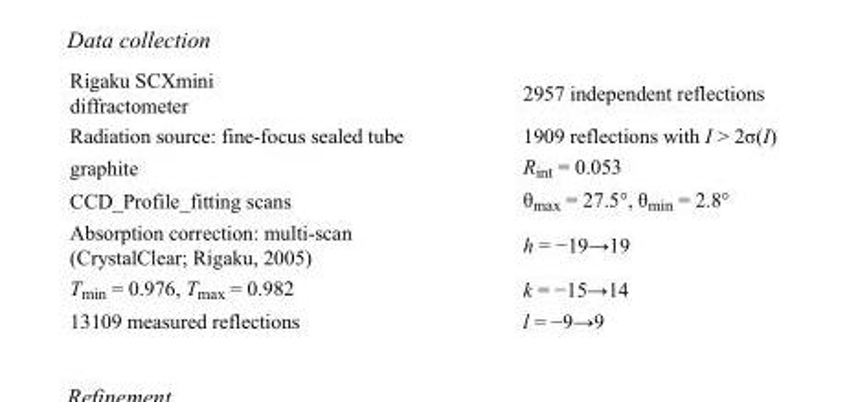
<table><tbody><tr><td>Rigaku SCXmini diffractometer</td><td>2957 independent reflections</td></tr><tr><td>Radiation source: fine-focus sealed tube</td><td>1909 reflections with I &gt; 2σ(I)</td></tr><tr><td>graphite</td><td>R<sub>int</sub> = 0.053</td></tr><tr><td>CCD_Profile_fitting scans</td><td>θ<sub>max</sub> = 27.5°, θ<sub>min</sub> = 2.8°</td></tr><tr><td>Absorption correction: multi-scan (CrystalClear; Rigaku, 2005)</td><td>h = −19→19</td></tr><tr><td>T<sub>min</sub> = 0.976, T<sub>max</sub> = 0.982</td><td>k = −15→14</td></tr><tr><td>13109 measured reflections</td><td>l = −9→9</td></tr></tbody></table>